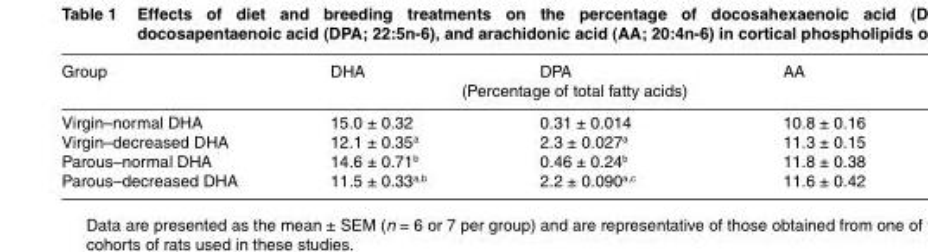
<table><thead><tr><td>Group</td><td>DHA</td><td>DPA (Percentage of total fatty acids)</td><td>AA</td></tr></thead><tbody><tr><td>Virgin–normal DHA</td><td>15.0 ± 0.32</td><td>0.31 ± 0.014</td><td>10.8 ± 0.16</td></tr><tr><td>Virgin–decreased DHA</td><td>12.1 ± 0.35<sup>a</sup></td><td>2.3 ± 0.027<sup>a</sup></td><td>11.3 ± 0.15</td></tr><tr><td>Parous–normal DHA</td><td>14.6 ± 0.71<sup>b</sup></td><td>0.46 ± 0.24<sup>b</sup></td><td>11.8 ± 0.38</td></tr><tr><td>Parous–decreased DHA</td><td>11.5 ± 0.33<sup>a</sup>,<sup>b</sup></td><td>2.2 ± 0.090<sup>a</sup>,<sup>c</sup></td><td>11.6 ± 0.42</td></tr></tbody></table>